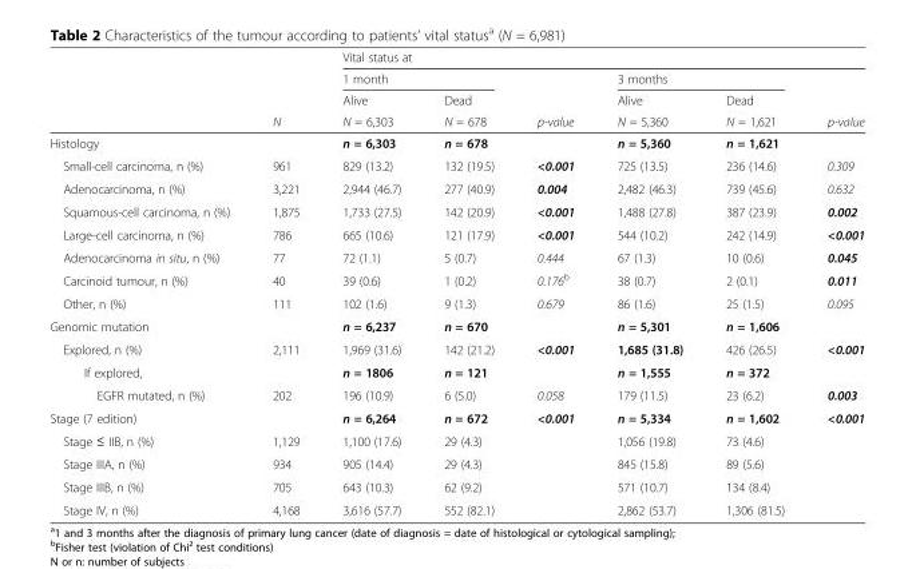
<table><thead><tr><td rowspan="4"></td><td rowspan="4">N</td><td colspan="6">Vital status at</td></tr><tr><td colspan="2">1 month</td><td rowspan="3">p-value</td><td colspan="2">3 months</td><td rowspan="3">p-value</td></tr><tr><td rowspan="2">Alive N = 6,303</td><td rowspan="2">Dead N = 678</td><td rowspan="2">Alive N = 5,360</td><td rowspan="2">Dead N = 1,621</td></tr><tr></tr></thead><tbody><tr><td>Histology</td><td></td><td>n = 6,303</td><td>n = 678</td><td></td><td>n = 5,360</td><td>n = 1,621</td><td></td></tr><tr><td>Small-cell carcinoma, n (%)</td><td>961</td><td>829 (13.2)</td><td>132 (19.5)</td><td>&lt;0.001</td><td>725 (13.5)</td><td>236 (14.6)</td><td>0.309</td></tr><tr><td>Adenocarcinoma, n (%)</td><td>3,221</td><td>2,944 (46.7)</td><td>277 (40.9)</td><td>0.004</td><td>2,482 (46.3)</td><td>739 (45.6)</td><td>0.632</td></tr><tr><td>Squamous-cell carcinoma, n (%)</td><td>1,875</td><td>1,733 (27.5)</td><td>142 (20.9)</td><td>&lt;0.001</td><td>1,488 (27.8)</td><td>387 (23.9)</td><td>0.002</td></tr><tr><td>Large-cell carcinoma, n (%)</td><td>786</td><td>665 (10.6)</td><td>121 (17.9)</td><td>&lt;0.001</td><td>544 (10.2)</td><td>242 (14.9)</td><td>&lt;0.001</td></tr><tr><td>Adenocarcinoma in situ, n (%)</td><td>77</td><td>72 (1.1)</td><td>5 (0.7)</td><td>0.444</td><td>67 (1.3)</td><td>10 (0.6)</td><td>0.045</td></tr><tr><td>Carcinoid tumour, n (%)</td><td>40</td><td>39 (0.6)</td><td>1 (0.2)</td><td>0.176<sup>b</sup></td><td>38 (0.7)</td><td>2 (0.1)</td><td>0.011</td></tr><tr><td>Other, n (%)</td><td>111</td><td>102 (1.6)</td><td>9 (1.3)</td><td>0.679</td><td>86 (1.6)</td><td>25 (1.5)</td><td>0.095</td></tr><tr><td>Genomic mutation</td><td></td><td>n = 6,237</td><td>n = 670</td><td></td><td>n = 5,301</td><td>n = 1,606</td><td></td></tr><tr><td>Explored, n (%)</td><td>2,111</td><td>1,969 (31.6)</td><td>142 (21.2)</td><td>&lt;0.001</td><td>1,685 (31.8)</td><td>426 (26.5)</td><td>&lt;0.001</td></tr><tr><td>If explored,</td><td></td><td>n = 1806</td><td>n = 121</td><td></td><td>n = 1,555</td><td>n = 372</td><td></td></tr><tr><td>EGFR mutated, n (%)</td><td>202</td><td>196 (10.9)</td><td>6 (5.0)</td><td>0.058</td><td>179 (11.5)</td><td>23 (6.2)</td><td>0.003</td></tr><tr><td>Stage (7 edition)</td><td></td><td>n = 6,264</td><td>n = 672</td><td>&lt;0.001</td><td>n = 5,334</td><td>n = 1,602</td><td>&lt;0.001</td></tr><tr><td>Stage ≤ IIB, n (%)</td><td>1,129</td><td>1,100 (17.6)</td><td>29 (4.3)</td><td></td><td>1,056 (19.8)</td><td>73 (4.6)</td><td></td></tr><tr><td>Stage IIIA, n (%)</td><td>934</td><td>905 (14.4)</td><td>29 (4.3)</td><td></td><td>845 (15.8)</td><td>89 (5.6)</td><td></td></tr><tr><td>Stage IIIB, n (%)</td><td>705</td><td>643 (10.3)</td><td>62 (9.2)</td><td></td><td>571 (10.7)</td><td>134 (8.4)</td><td></td></tr><tr><td>Stage IV, n (%)</td><td>4,168</td><td>3,616 (57.7)</td><td>552 (82.1)</td><td></td><td>2,862 (53.7)</td><td>1,306 (81.5)</td><td></td></tr></tbody></table>